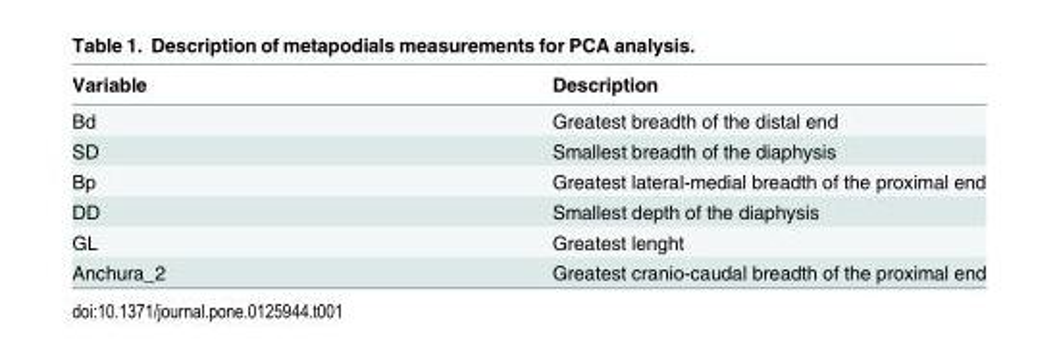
<table><thead><tr><td>Variable</td><td>Description</td></tr></thead><tbody><tr><td>Bd</td><td>Greatest breadth of the distal end</td></tr><tr><td>SD</td><td>Smallest breadth of the diaphysis</td></tr><tr><td>Bp</td><td>Greatest lateral-medial breadth of the proximal end</td></tr><tr><td>DD</td><td>Smallest depth of the diaphysis</td></tr><tr><td>GL</td><td>Greatest lenght</td></tr><tr><td>Anchura_2</td><td>Greatest cranio-caudal breadth of the proximal end</td></tr></tbody></table>